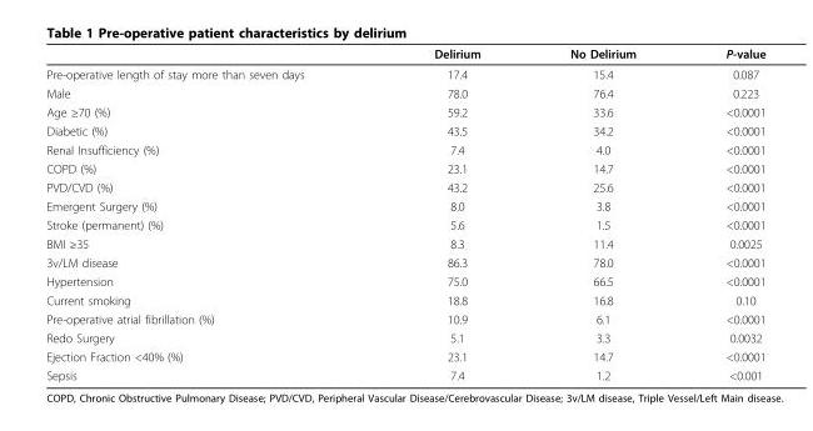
<table><thead><tr><td></td><td>Delirium</td><td>No Delirium</td><td>P-value</td></tr></thead><tbody><tr><td>Pre-operative length of stay more than seven days</td><td>17.4</td><td>15.4</td><td>0.087</td></tr><tr><td>Male</td><td>78.0</td><td>76.4</td><td>0.223</td></tr><tr><td>Age ≥70 (%)</td><td>59.2</td><td>33.6</td><td>&lt;0.0001</td></tr><tr><td>Diabetic (%)</td><td>43.5</td><td>34.2</td><td>&lt;0.0001</td></tr><tr><td>Renal Insufficiency (%)</td><td>7.4</td><td>4.0</td><td>&lt;0.0001</td></tr><tr><td>COPD (%)</td><td>23.1</td><td>14.7</td><td>&lt;0.0001</td></tr><tr><td>PVD/CVD (%)</td><td>43.2</td><td>25.6</td><td>&lt;0.0001</td></tr><tr><td>Emergent Surgery (%)</td><td>8.0</td><td>3.8</td><td>&lt;0.0001</td></tr><tr><td>Stroke (permanent) (%)</td><td>5.6</td><td>1.5</td><td>&lt;0.0001</td></tr><tr><td>BMI ≥35</td><td>8.3</td><td>11.4</td><td>0.0025</td></tr><tr><td>3v/LM disease</td><td>86.3</td><td>78.0</td><td>&lt;0.0001</td></tr><tr><td>Hypertension</td><td>75.0</td><td>66.5</td><td>&lt;0.0001</td></tr><tr><td>Current smoking</td><td>18.8</td><td>16.8</td><td>0.10</td></tr><tr><td>Pre-operative atrial fibrillation (%)</td><td>10.9</td><td>6.1</td><td>&lt;0.0001</td></tr><tr><td>Redo Surgery</td><td>5.1</td><td>3.3</td><td>0.0032</td></tr><tr><td>Ejection Fraction &lt;40% (%)</td><td>23.1</td><td>14.7</td><td>&lt;0.0001</td></tr><tr><td>Sepsis</td><td>7.4</td><td>1.2</td><td>&lt;0.001</td></tr></tbody></table>